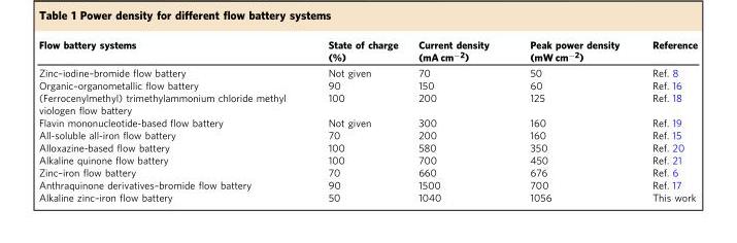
<table><thead><tr><td>Flow battery systems</td><td>State of charge (%)</td><td>Current density (mA cm<sup>−2</sup>)</td><td>Peak power density (mW cm<sup>−2</sup>)</td><td>Reference</td></tr></thead><tbody><tr><td>Zinc–iodine–bromide flow battery</td><td>Not given</td><td>70</td><td>50</td><td>Ref. 8</td></tr><tr><td>Organic–organometallic flow battery</td><td>90</td><td>150</td><td>60</td><td>Ref. 16</td></tr><tr><td>(Ferrocenylmethyl) trimethylammonium chloride methyl viologen flow battery</td><td>100</td><td>200</td><td>125</td><td>Ref. 18</td></tr><tr><td>Flavin mononucleotide-based flow battery</td><td>Not given</td><td>300</td><td>160</td><td>Ref. 19</td></tr><tr><td>All-soluble all-iron flow battery</td><td>70</td><td>200</td><td>160</td><td>Ref. 15</td></tr><tr><td>Alloxazine-based flow battery</td><td>100</td><td>580</td><td>350</td><td>Ref. 20</td></tr><tr><td>Alkaline quinone flow battery</td><td>100</td><td>700</td><td>450</td><td>Ref. 21</td></tr><tr><td>Zinc–iron flow battery</td><td>70</td><td>660</td><td>676</td><td>Ref. 6</td></tr><tr><td>Anthraquinone derivatives–bromide flow battery</td><td>90</td><td>1500</td><td>700</td><td>Ref. 17</td></tr><tr><td>Alkaline zinc–iron flow battery</td><td>50</td><td>1040</td><td>1056</td><td>This work</td></tr></tbody></table>